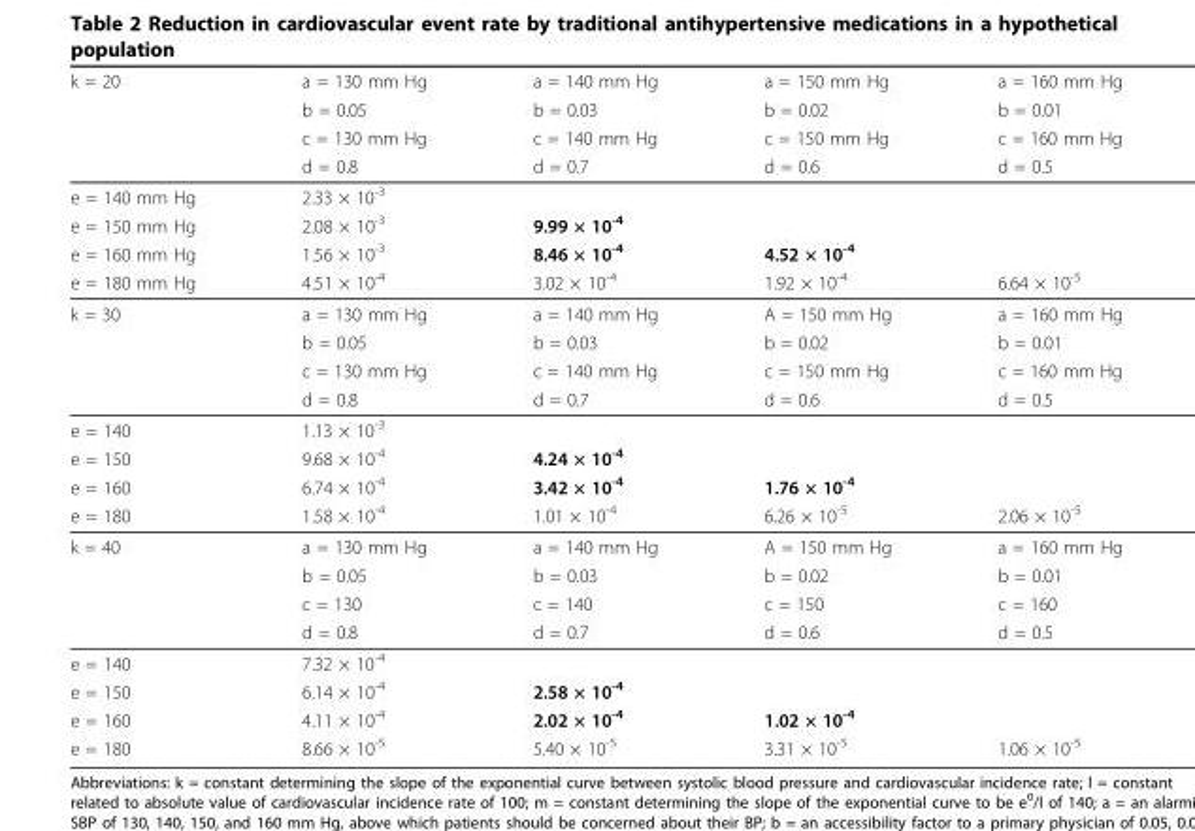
<table><thead><tr><td rowspan="4">k = 20</td><td rowspan="4">a = 130 mm Hg b = 0.05 c = 130 mm Hg d = 0.8</td><td rowspan="4">a = 140 mm Hg b = 0.03 c = 140 mm Hg d = 0.7</td><td rowspan="4">a = 150 mm Hg b = 0.02 c = 150 mm Hg d = 0.6</td><td rowspan="4">a = 160 mm Hg b = 0.01 c = 160 mm Hg d = 0.5</td></tr><tr></tr><tr></tr><tr></tr></thead><tbody><tr><td>e = 140 mm Hg</td><td>2.33 × 10-3</td><td></td><td></td><td></td></tr><tr><td>e = 150 mm Hg</td><td>2.08 × 10-3</td><td>9.99 × 10-4</td><td></td><td></td></tr><tr><td>e = 160 mm Hg</td><td>1.56 × 10-3</td><td>8.46 × 10-4</td><td>4.52 × 10-4</td><td></td></tr><tr><td>e = 180 mm Hg</td><td>4.51 × 10-4</td><td>3.02 × 10-4</td><td>1.92 × 10-4</td><td>6.64 × 10-5</td></tr><tr><td rowspan="4">k = 30</td><td>a = 130 mm Hg</td><td>a = 140 mm Hg</td><td>A = 150 mm Hg</td><td>a = 160 mm Hg</td></tr><tr><td>b = 0.05</td><td>b = 0.03</td><td>b = 0.02</td><td>b = 0.01</td></tr><tr><td>c = 130 mm Hg</td><td>c = 140 mm Hg</td><td>c = 150 mm Hg</td><td>c = 160 mm Hg</td></tr><tr><td>d = 0.8</td><td>d = 0.7</td><td>d = 0.6</td><td>d = 0.5</td></tr><tr><td>e = 140</td><td>1.13 × 10-3</td><td></td><td></td><td></td></tr><tr><td>e = 150</td><td>9.68 × 10-4</td><td>4.24 × 10-4</td><td></td><td></td></tr><tr><td>e = 160</td><td>6.74 × 10-4</td><td>3.42 × 10-4</td><td>1.76 × 10-4</td><td></td></tr><tr><td>e = 180</td><td>1.58 × 10-4</td><td>1.01 × 10-4</td><td>6.26 × 10-5</td><td>2.06 × 10-5</td></tr><tr><td rowspan="4">k = 40</td><td>a = 130 mm Hg</td><td>a = 140 mm Hg</td><td>A = 150 mm Hg</td><td>a = 160 mm Hg</td></tr><tr><td>b = 0.05</td><td>b = 0.03</td><td>b = 0.02</td><td>b = 0.01</td></tr><tr><td>c = 130</td><td>c = 140</td><td>c = 150</td><td>c = 160</td></tr><tr><td>d = 0.8</td><td>d = 0.7</td><td>d = 0.6</td><td>d = 0.5</td></tr><tr><td>e = 140</td><td>7.32 × 10-4</td><td></td><td></td><td></td></tr><tr><td>e = 150</td><td>6.14 × 10-4</td><td>2.58 × 10-4</td><td></td><td></td></tr><tr><td>e = 160</td><td>4.11 × 10-4</td><td>2.02 × 10-4</td><td>1.02 × 10-4</td><td></td></tr><tr><td>e = 180</td><td>8.66 × 10-5</td><td>5.40 × 10-5</td><td>3.31 × 10-5</td><td>1.06 × 10-5</td></tr></tbody></table>